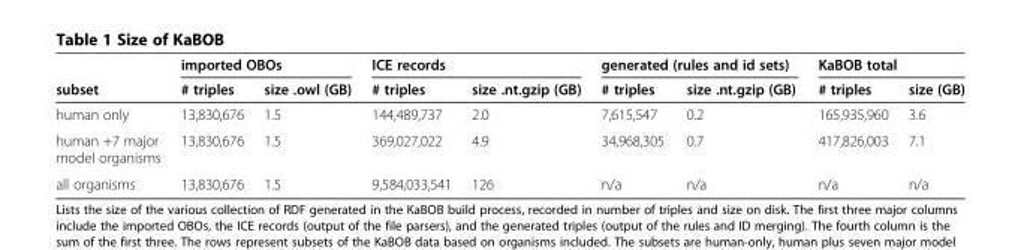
<table><thead><tr><td rowspan="2">subset</td><td colspan="2">imported OBOs</td><td colspan="2">ICE records</td><td colspan="2">generated (rules and id sets)</td><td colspan="2">KaBOB total</td></tr><tr><td># triples</td><td>size .owl (GB)</td><td># triples</td><td>size .nt.gzip (GB)</td><td># triples</td><td>size .nt.gzip (GB)</td><td># triples</td><td>size (GB)</td></tr></thead><tbody><tr><td>human only</td><td>13,830,676</td><td>1.5</td><td>144,489,737</td><td>2.0</td><td>7,615,547</td><td>0.2</td><td>165,935,960</td><td>3.6</td></tr><tr><td>human +7 major model organisms</td><td>13,830,676</td><td>1.5</td><td>369,027,022</td><td>4.9</td><td>34,968,305</td><td>0.7</td><td>417,826,003</td><td>7.1</td></tr><tr><td>all organisms</td><td>13,830,676</td><td>1.5</td><td>9,584,033,541</td><td>126</td><td>n/a</td><td>n/a</td><td>n/a</td><td>n/a</td></tr></tbody></table>